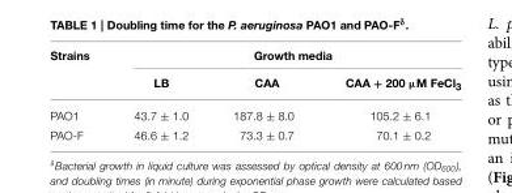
<table><thead><tr><td rowspan="2">Strains</td><td colspan="3">Growth media</td></tr><tr><td>LB</td><td>CAA</td><td>CAA + 200 µM FeCl<sub>3</sub></td></tr></thead><tbody><tr><td>PAO1</td><td>43.7 ± 1.0</td><td>187.8 ± 8.0</td><td>105.2 ± 6.1</td></tr><tr><td>PAO-F</td><td>46.6 ± 1.2</td><td>73.3 ± 0.7</td><td>70.1 ± 0.2</td></tr></tbody></table>